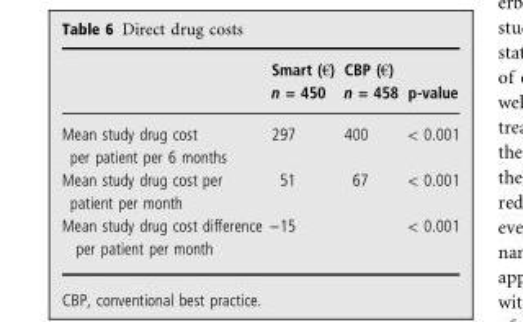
<table><thead><tr><td></td><td>Smart (€) n = 450</td><td>CBP (€) n = 458</td><td>p-value</td></tr></thead><tbody><tr><td>Mean study drug cost per patient per 6 months</td><td>297</td><td>400</td><td>&lt; 0.001</td></tr><tr><td>Mean study drug cost per patient per month</td><td>51</td><td>67</td><td>&lt; 0.001</td></tr><tr><td>Mean study drug cost difference per patient per month</td><td>−15</td><td></td><td>&lt; 0.001</td></tr></tbody></table>